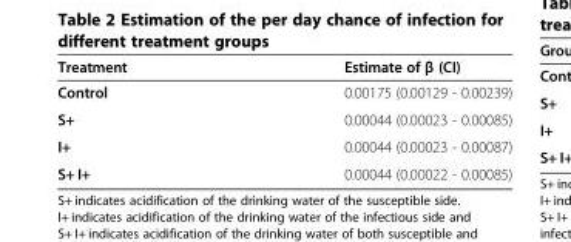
<table><thead><tr><td>Treatment</td><td>Estimate of β (CI)</td></tr></thead><tbody><tr><td>Control</td><td>0.00175 (0.00129 - 0.00239)</td></tr><tr><td>S+</td><td>0.00044 (0.00023 - 0.00085)</td></tr><tr><td>I+</td><td>0.00044 (0.00023 - 0.00087)</td></tr><tr><td>S+ I+</td><td>0.00044 (0.00022 - 0.00085)</td></tr></tbody></table>